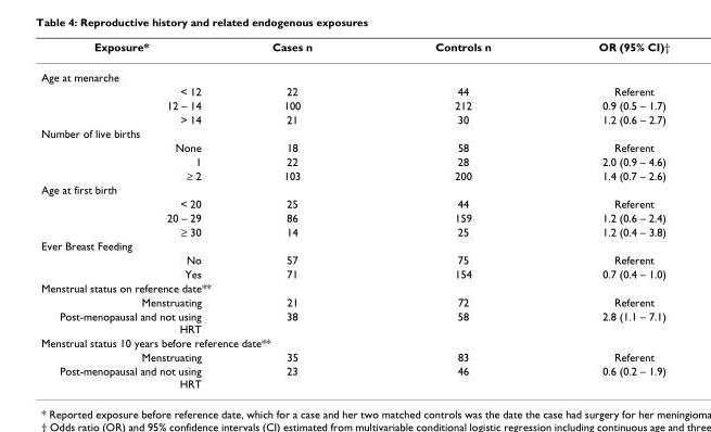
<table><thead><tr><td>Exposure*</td><td>Cases n</td><td>Controls n</td><td>OR (95% CI)†</td></tr></thead><tbody><tr><td colspan="4">Age at menarche</td></tr><tr><td>&lt; 12</td><td>22</td><td>44</td><td>Referent</td></tr><tr><td>12 – 14</td><td>100</td><td>212</td><td>0.9 (0.5 – 1.7)</td></tr><tr><td>&gt; 14</td><td>21</td><td>30</td><td>1.2 (0.6 – 2.7)</td></tr><tr><td colspan="4">Number of live births</td></tr><tr><td>None</td><td>18</td><td>58</td><td>Referent</td></tr><tr><td>1</td><td>22</td><td>28</td><td>2.0 (0.9 – 4.6)</td></tr><tr><td>≥ 2</td><td>103</td><td>200</td><td>1.4 (0.7 – 2.6)</td></tr><tr><td colspan="4">Age at first birth</td></tr><tr><td>&lt; 20</td><td>25</td><td>44</td><td>Referent</td></tr><tr><td>20 – 29</td><td>86</td><td>159</td><td>1.2 (0.6 – 2.4)</td></tr><tr><td>≥ 30</td><td>14</td><td>25</td><td>1.2 (0.4 – 3.8)</td></tr><tr><td colspan="4">Ever Breast Feeding</td></tr><tr><td>No</td><td>57</td><td>75</td><td>Referent</td></tr><tr><td>Yes</td><td>71</td><td>154</td><td>0.7 (0.4 – 1.0)</td></tr><tr><td colspan="4">Menstrual status on reference date**</td></tr><tr><td>Menstruating</td><td>21</td><td>72</td><td>Referent</td></tr><tr><td>Post-menopausal and not using HRT</td><td>38</td><td>58</td><td>2.8 (1.1 – 7.1)</td></tr><tr><td colspan="4">Menstrual status 10 years before reference date**</td></tr><tr><td>Menstruating</td><td>35</td><td>83</td><td>Referent</td></tr><tr><td>Post-menopausal and not using HRT</td><td>23</td><td>46</td><td>0.6 (0.2 – 1.9)</td></tr></tbody></table>